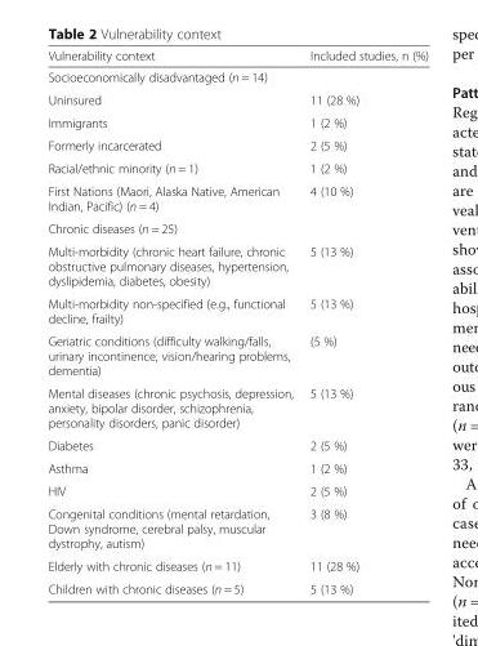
<table><thead><tr><td>Vulnerability context</td><td>Included studies, n (%)</td></tr></thead><tbody><tr><td colspan="2">Socioeconomically disadvantaged (n = 14)</td></tr><tr><td>Uninsured</td><td>11 (28 %)</td></tr><tr><td>Immigrants</td><td>1 (2 %)</td></tr><tr><td>Formerly incarcerated</td><td>2 (5 %)</td></tr><tr><td>Racial/ethnic minority (n = 1)</td><td>1 (2 %)</td></tr><tr><td>First Nations (Maori, Alaska Native, American Indian, Pacific) (n = 4)</td><td>4 (10 %)</td></tr><tr><td colspan="2">Chronic diseases (n = 25)</td></tr><tr><td>Multi-morbidity (chronic heart failure, chronic obstructive pulmonary diseases, hypertension, dyslipidemia, diabetes, obesity)</td><td>5 (13 %)</td></tr><tr><td>Multi-morbidity non-specified (e.g., functional decline, frailty)</td><td>5 (13 %)</td></tr><tr><td>Geriatric conditions (difficulty walking/falls, urinary incontinence, vision/hearing problems, dementia)</td><td>(5 %)</td></tr><tr><td>Mental diseases (chronic psychosis, depression, anxiety, bipolar disorder, schizophrenia, personality disorders, panic disorder)</td><td>5 (13 %)</td></tr><tr><td>Diabetes</td><td>2 (5 %)</td></tr><tr><td>Asthma</td><td>1 (2 %)</td></tr><tr><td>HIV</td><td>2 (5 %)</td></tr><tr><td>Congenital conditions (mental retardation, Down syndrome, cerebral palsy, muscular dystrophy, autism)</td><td>3 (8 %)</td></tr><tr><td>Elderly with chronic diseases (n = 11)</td><td>11 (28 %)</td></tr><tr><td>Children with chronic diseases (n = 5)</td><td>5 (13 %)</td></tr></tbody></table>